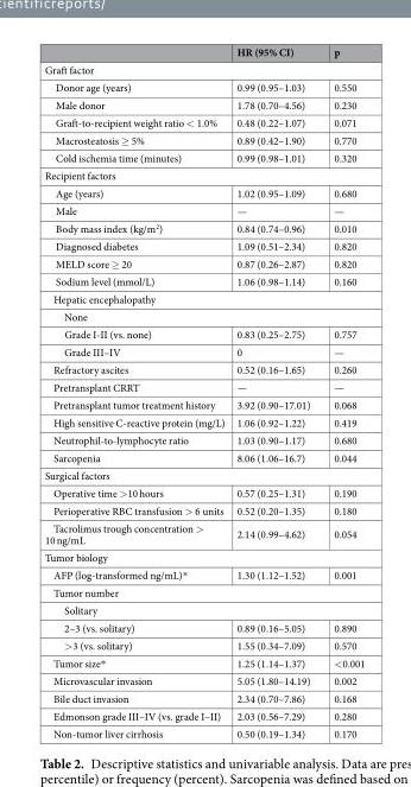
<table><thead><tr><td></td><td>HR (95% CI)</td><td>p</td></tr></thead><tbody><tr><td colspan="3">Graft factor</td></tr><tr><td>Donor age (years)</td><td>0.99 (0.95–1.03)</td><td>0.550</td></tr><tr><td>Male donor</td><td>1.78 (0.70–4.56)</td><td>0.230</td></tr><tr><td>Graft-to-recipient weight ratio &lt; 1.0%</td><td>0.48 (0.22–1.07)</td><td>0.071</td></tr><tr><td>Macrosteatosis ≥ 5%</td><td>0.89 (0.42–1.90)</td><td>0.770</td></tr><tr><td>Cold ischemia time (minutes)</td><td>0.99 (0.98–1.01)</td><td>0.320</td></tr><tr><td colspan="3">Recipient factors</td></tr><tr><td>Age (years)</td><td>1.02 (0.95–1.09)</td><td>0.680</td></tr><tr><td>Male</td><td>—</td><td>—</td></tr><tr><td>Body mass index (kg/m<sup>2</sup>)</td><td>0.84 (0.74–0.96)</td><td>0.010</td></tr><tr><td>Diagnosed diabetes</td><td>1.09 (0.51–2.34)</td><td>0.820</td></tr><tr><td>MELD score ≥ 20</td><td>0.87 (0.26–2.87)</td><td>0.820</td></tr><tr><td>Sodium level (mmol/L)</td><td>1.06 (0.98–1.14)</td><td>0.160</td></tr><tr><td colspan="3">Hepatic encephalopathy</td></tr><tr><td colspan="3">None</td></tr><tr><td>Grade I-II (vs. none)</td><td>0.83 (0.25–2.75)</td><td>0.757</td></tr><tr><td>Grade III–IV</td><td>0</td><td>—</td></tr><tr><td>Refractory ascites</td><td>0.52 (0.16–1.65)</td><td>0.260</td></tr><tr><td>Pretransplant CRRT</td><td>—</td><td>—</td></tr><tr><td>Pretransplant tumor treatment history</td><td>3.92 (0.90–17.01)</td><td>0.068</td></tr><tr><td>High sensitive C-reactive protein (mg/L)</td><td>1.06 (0.92–1.22)</td><td>0.419</td></tr><tr><td>Neutrophil-to-lymphocyte ratio</td><td>1.03 (0.90–1.17)</td><td>0.680</td></tr><tr><td>Sarcopenia</td><td>8.06 (1.06–16.7)</td><td>0.044</td></tr><tr><td colspan="3">Surgical factors</td></tr><tr><td>Operative time &gt;10 hours</td><td>0.57 (0.25–1.31)</td><td>0.190</td></tr><tr><td>Perioperative RBC transfusion &gt; 6 units</td><td>0.52 (0.20–1.35)</td><td>0.180</td></tr><tr><td>Tacrolimus trough concentration &gt; 10 ng/mL</td><td>2.14 (0.99–4.62)</td><td>0.054</td></tr><tr><td colspan="3">Tumor biology</td></tr><tr><td>AFP (log-transformed ng/mL)*</td><td>1.30 (1.12–1.52)</td><td>0.001</td></tr><tr><td colspan="3">Tumor number</td></tr><tr><td colspan="3">Solitary</td></tr><tr><td>2–3 (vs. solitary)</td><td>0.89 (0.16–5.05)</td><td>0.890</td></tr><tr><td>&gt;3 (vs. solitary)</td><td>1.55 (0.34–7.09)</td><td>0.570</td></tr><tr><td>Tumor size*</td><td>1.25 (1.14–1.37)</td><td>&lt;0.001</td></tr><tr><td>Microvascular invasion</td><td>5.05 (1.80–14.19)</td><td>0.002</td></tr><tr><td>Bile duct invasion</td><td>2.34 (0.70–7.86)</td><td>0.168</td></tr><tr><td>Edmonson grade III–IV (vs. grade I–II)</td><td>2.03 (0.56–7.29)</td><td>0.280</td></tr><tr><td>Non-tumor liver cirrhosis</td><td>0.50 (0.19–1.34)</td><td>0.170</td></tr></tbody></table>